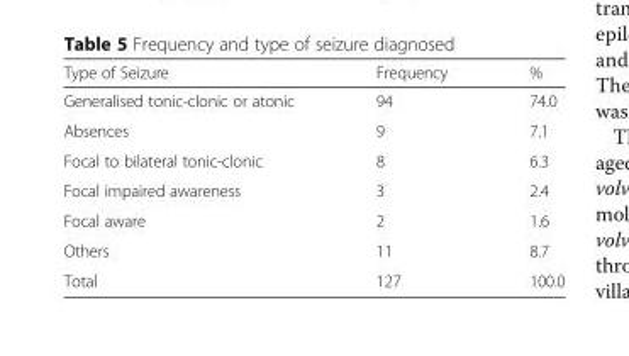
<table><thead><tr><td>Type of Seizure</td><td>Frequency</td><td>%</td></tr></thead><tbody><tr><td>Generalised tonic-clonic or atonic</td><td>94</td><td>74.0</td></tr><tr><td>Absences</td><td>9</td><td>7.1</td></tr><tr><td>Focal to bilateral tonic-clonic</td><td>8</td><td>6.3</td></tr><tr><td>Focal impaired awareness</td><td>3</td><td>2.4</td></tr><tr><td>Focal aware</td><td>2</td><td>1.6</td></tr><tr><td>Others</td><td>11</td><td>8.7</td></tr><tr><td>Total</td><td>127</td><td>100.0</td></tr></tbody></table>